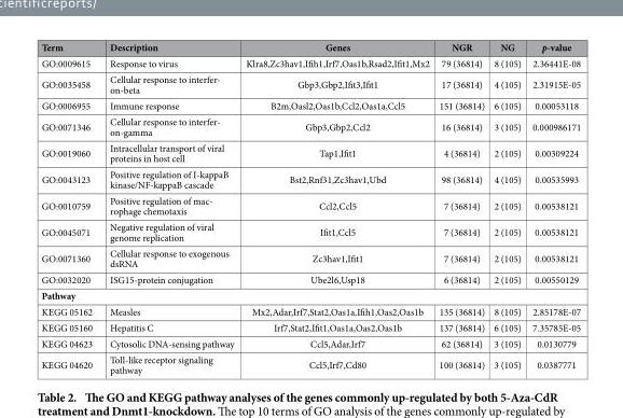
<table><thead><tr><td>Term</td><td>Description</td><td>Genes</td><td>NGR</td><td>NG</td><td>p-value</td></tr></thead><tbody><tr><td>GO:0009615</td><td>Response to virus</td><td>Klra8,Zc3hav1,Ifih1,Irf7,Oas1b,Rsad2,Ifit1,Mx2</td><td>79 (36814)</td><td>8 (105)</td><td>2.36441E-08</td></tr><tr><td>GO:0035458</td><td>Cellular response to interfer- on-beta</td><td>Gbp3,Gbp2,Ifit3,Ifit1</td><td>17 (36814)</td><td>4 (105)</td><td>2.31915E-05</td></tr><tr><td>GO:0006955</td><td>Immune response</td><td>B2m,Oasl2,Oas1b,Ccl2,Oas1a,Ccl5</td><td>151 (36814)</td><td>6 (105)</td><td>0.00053118</td></tr><tr><td>GO:0071346</td><td>Cellular response to interfer- on-gamma</td><td>Gbp3,Gbp2,Ccl2</td><td>16 (36814)</td><td>3 (105)</td><td>0.000986171</td></tr><tr><td>GO:0019060</td><td>Intracellular transport of viral proteins in host cell</td><td>Tap1,Ifit1</td><td>4 (36814)</td><td>2 (105)</td><td>0.00309224</td></tr><tr><td>GO:0043123</td><td>Positive regulation of I-kappaB kinase/NF-kappaB cascade</td><td>Bst2,Rnf31,Zc3hav1,Ubd</td><td>98 (36814)</td><td>4 (105)</td><td>0.00535993</td></tr><tr><td>GO:0010759</td><td>Positive regulation of mac- rophage chemotaxis</td><td>Ccl2,Ccl5</td><td>7 (36814)</td><td>2 (105)</td><td>0.00538121</td></tr><tr><td>GO:0045071</td><td>Negative regulation of viral genome replication</td><td>Ifit1,Ccl5</td><td>7 (36814)</td><td>2 (105)</td><td>0.00538121</td></tr><tr><td>GO:0071360</td><td>Cellular response to exogenous dsRNA</td><td>Zc3hav1,Ifit1</td><td>7 (36814)</td><td>2 (105)</td><td>0.00538121</td></tr><tr><td>GO:0032020</td><td>ISG15-protein conjugation</td><td>Ube2l6,Usp18</td><td>6 (36814)</td><td>2 (105)</td><td>0.00550129</td></tr><tr><td colspan="6">Pathway</td></tr><tr><td>KEGG 05162</td><td>Measles</td><td>Mx2,Adar,Irf7,Stat2,Oas1a,Ifih1,Oas2,Oas1b</td><td>135 (36814)</td><td>8 (105)</td><td>2.85178E-07</td></tr><tr><td>KEGG 05160</td><td>Hepatitis C</td><td>Irf7,Stat2,Ifit1,Oas1a,Oas2,Oas1b</td><td>137 (36814)</td><td>6 (105)</td><td>7.35785E-05</td></tr><tr><td>KEGG 04623</td><td>Cytosolic DNA-sensing pathway</td><td>Ccl5,Adar,Irf7</td><td>62 (36814)</td><td>3 (105)</td><td>0.0130779</td></tr><tr><td>KEGG 04620</td><td>Toll-like receptor signaling pathway</td><td>Ccl5,Irf7,Cd80</td><td>100 (36814)</td><td>3 (105)</td><td>0.0387771</td></tr></tbody></table>